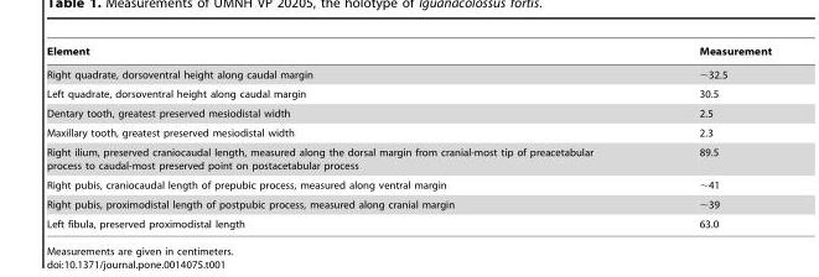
<table><thead><tr><td>Element</td><td>Measurement</td></tr></thead><tbody><tr><td>Right quadrate, dorsoventral height along caudal margin</td><td>∼32.5</td></tr><tr><td>Left quadrate, dorsoventral height along caudal margin</td><td>30.5</td></tr><tr><td>Dentary tooth, greatest preserved mesiodistal width</td><td>2.5</td></tr><tr><td>Maxillary tooth, greatest preserved mesiodistal width</td><td>2.3</td></tr><tr><td>Right ilium, preserved craniocaudal length, measured along the dorsal margin from cranial-most tip of preacetabular process to caudal-most preserved point on postacetabular process</td><td>89.5</td></tr><tr><td>Right pubis, craniocaudal length of prepubic process, measured along ventral margin</td><td>∼41</td></tr><tr><td>Right pubis, proximodistal length of postpubic process, measured along cranial margin</td><td>∼39</td></tr><tr><td>Left fibula, preserved proximodistal length</td><td>63.0</td></tr></tbody></table>